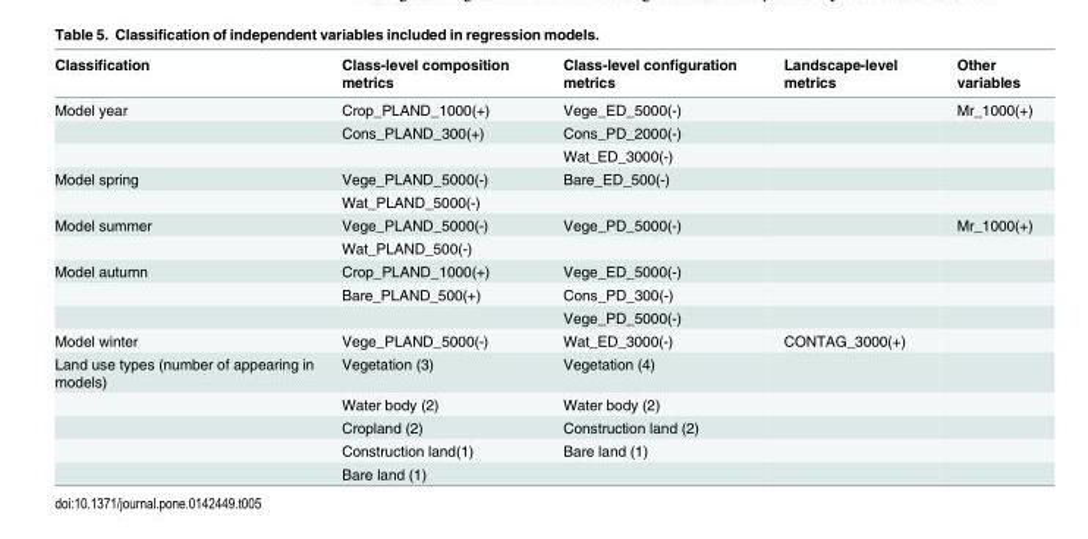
<table><thead><tr><td>Classification</td><td>Class-level composition metrics</td><td>Class-level configuration metrics</td><td>Landscape-level metrics</td><td>Other variables</td></tr></thead><tbody><tr><td rowspan="3">Model year</td><td>Crop_PLAND_1000(+)</td><td>Vege_ED_5000(-)</td><td></td><td>Mr_1000(+)</td></tr><tr><td>Cons_PLAND_300(+)</td><td>Cons_PD_2000(-)</td><td></td><td></td></tr><tr><td></td><td>Wat_ED_3000(-)</td><td></td><td></td></tr><tr><td rowspan="2">Model spring</td><td>Vege_PLAND_5000(-)</td><td>Bare_ED_500(-)</td><td></td><td></td></tr><tr><td>Wat_PLAND_5000(-)</td><td></td><td></td><td></td></tr><tr><td rowspan="2">Model summer</td><td>Vege_PLAND_5000(-)</td><td>Vege_PD_5000(-)</td><td></td><td>Mr_1000(+)</td></tr><tr><td>Wat_PLAND_500(-)</td><td></td><td></td><td></td></tr><tr><td rowspan="3">Model autumn</td><td>Crop_PLAND_1000(+)</td><td>Vege_ED_5000(-)</td><td></td><td></td></tr><tr><td>Bare_PLAND_500(+)</td><td>Cons_PD_300(-)</td><td></td><td></td></tr><tr><td></td><td>Vege_PD_5000(-)</td><td></td><td></td></tr><tr><td>Model winter</td><td>Vege_PLAND_5000(-)</td><td>Wat_ED_3000(-)</td><td>CONTAG_3000(+)</td><td></td></tr><tr><td rowspan="5">Land use types (number of appearing in models)</td><td>Vegetation (3)</td><td>Vegetation (4)</td><td></td><td></td></tr><tr><td>Water body (2)</td><td>Water body (2)</td><td></td><td></td></tr><tr><td>Cropland (2)</td><td>Construction land (2)</td><td></td><td></td></tr><tr><td>Construction land(1)</td><td>Bare land (1)</td><td></td><td></td></tr><tr><td>Bare land (1)</td><td></td><td></td><td></td></tr></tbody></table>